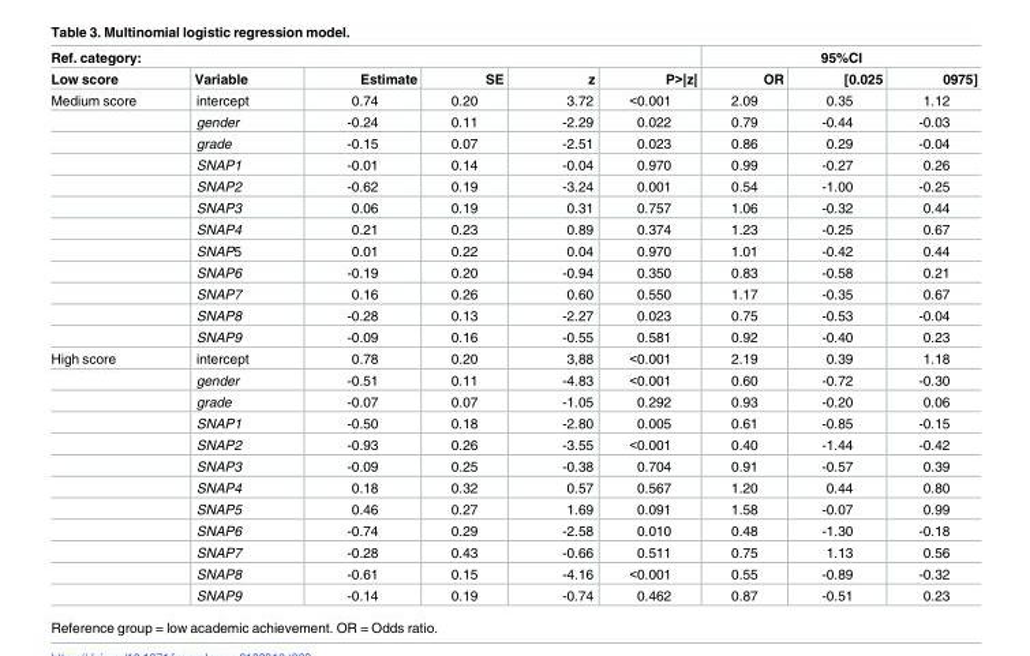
<table><thead><tr><td colspan="6">Ref. category:</td><td colspan="3">95%CI</td></tr><tr><td>Low score</td><td>Variable</td><td>Estimate</td><td>SE</td><td>z</td><td>P&gt;|z|</td><td>OR</td><td>[0.025</td><td>0975]</td></tr></thead><tbody><tr><td rowspan="12">Medium score</td><td>intercept</td><td>0.74</td><td>0.20</td><td>3.72</td><td>&lt;0.001</td><td>2.09</td><td>0.35</td><td>1.12</td></tr><tr><td>gender</td><td>-0.24</td><td>0.11</td><td>-2.29</td><td>0.022</td><td>0.79</td><td>-0.44</td><td>-0.03</td></tr><tr><td>grade</td><td>-0.15</td><td>0.07</td><td>-2.51</td><td>0.023</td><td>0.86</td><td>0.29</td><td>-0.04</td></tr><tr><td>SNAP1</td><td>-0.01</td><td>0.14</td><td>-0.04</td><td>0.970</td><td>0.99</td><td>-0.27</td><td>0.26</td></tr><tr><td>SNAP2</td><td>-0.62</td><td>0.19</td><td>-3.24</td><td>0.001</td><td>0.54</td><td>-1.00</td><td>-0.25</td></tr><tr><td>SNAP3</td><td>0.06</td><td>0.19</td><td>0.31</td><td>0.757</td><td>1.06</td><td>-0.32</td><td>0.44</td></tr><tr><td>SNAP4</td><td>0.21</td><td>0.23</td><td>0.89</td><td>0.374</td><td>1.23</td><td>-0.25</td><td>0.67</td></tr><tr><td>SNAP5</td><td>0.01</td><td>0.22</td><td>0.04</td><td>0.970</td><td>1.01</td><td>-0.42</td><td>0.44</td></tr><tr><td>SNAP6</td><td>-0.19</td><td>0.20</td><td>-0.94</td><td>0.350</td><td>0.83</td><td>-0.58</td><td>0.21</td></tr><tr><td>SNAP7</td><td>0.16</td><td>0.26</td><td>0.60</td><td>0.550</td><td>1.17</td><td>-0.35</td><td>0.67</td></tr><tr><td>SNAP8</td><td>-0.28</td><td>0.13</td><td>-2.27</td><td>0.023</td><td>0.75</td><td>-0.53</td><td>-0.04</td></tr><tr><td>SNAP9</td><td>-0.09</td><td>0.16</td><td>-0.55</td><td>0.581</td><td>0.92</td><td>-0.40</td><td>0.23</td></tr><tr><td rowspan="12">High score</td><td>intercept</td><td>0.78</td><td>0.20</td><td>3,88</td><td>&lt;0.001</td><td>2.19</td><td>0.39</td><td>1.18</td></tr><tr><td>gender</td><td>-0.51</td><td>0.11</td><td>-4.83</td><td>&lt;0.001</td><td>0.60</td><td>-0.72</td><td>-0.30</td></tr><tr><td>grade</td><td>-0.07</td><td>0.07</td><td>-1.05</td><td>0.292</td><td>0.93</td><td>-0.20</td><td>0.06</td></tr><tr><td>SNAP1</td><td>-0.50</td><td>0.18</td><td>-2.80</td><td>0.005</td><td>0.61</td><td>-0.85</td><td>-0.15</td></tr><tr><td>SNAP2</td><td>-0.93</td><td>0.26</td><td>-3.55</td><td>&lt;0.001</td><td>0.40</td><td>-1.44</td><td>-0.42</td></tr><tr><td>SNAP3</td><td>-0.09</td><td>0.25</td><td>-0.38</td><td>0.704</td><td>0.91</td><td>-0.57</td><td>0.39</td></tr><tr><td>SNAP4</td><td>0.18</td><td>0.32</td><td>0.57</td><td>0.567</td><td>1.20</td><td>0.44</td><td>0.80</td></tr><tr><td>SNAP5</td><td>0.46</td><td>0.27</td><td>1.69</td><td>0.091</td><td>1.58</td><td>-0.07</td><td>0.99</td></tr><tr><td>SNAP6</td><td>-0.74</td><td>0.29</td><td>-2.58</td><td>0.010</td><td>0.48</td><td>-1.30</td><td>-0.18</td></tr><tr><td>SNAP7</td><td>-0.28</td><td>0.43</td><td>-0.66</td><td>0.511</td><td>0.75</td><td>1.13</td><td>0.56</td></tr><tr><td>SNAP8</td><td>-0.61</td><td>0.15</td><td>-4.16</td><td>&lt;0.001</td><td>0.55</td><td>-0.89</td><td>-0.32</td></tr><tr><td>SNAP9</td><td>-0.14</td><td>0.19</td><td>-0.74</td><td>0.462</td><td>0.87</td><td>-0.51</td><td>0.23</td></tr></tbody></table>